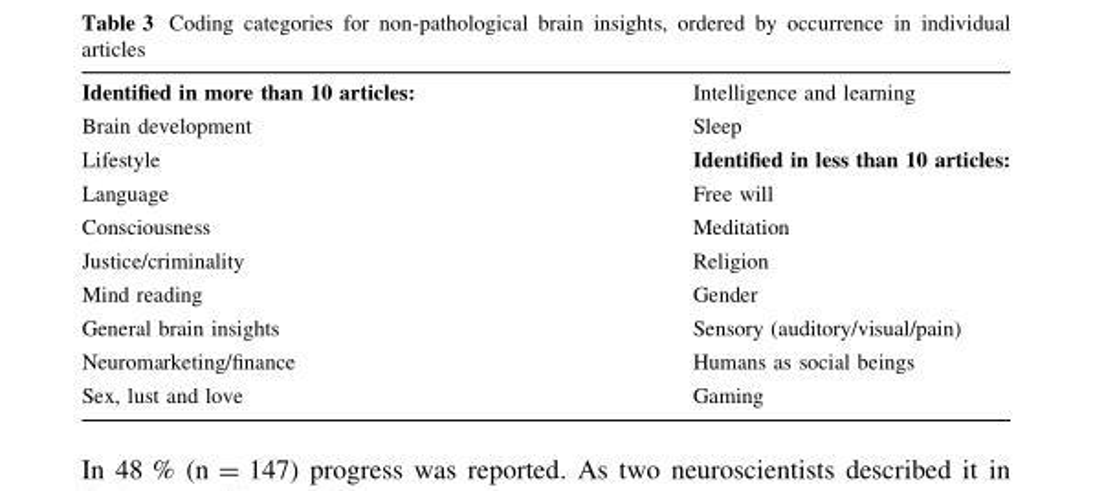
<table><tbody><tr><td>Identified in more than 10 articles:</td><td>Intelligence and learning</td></tr><tr><td>Brain development</td><td>Sleep</td></tr><tr><td>Lifestyle</td><td>Identified in less than 10 articles:</td></tr><tr><td>Language</td><td>Free will</td></tr><tr><td>Consciousness</td><td>Meditation</td></tr><tr><td>Justice/criminality</td><td>Religion</td></tr><tr><td>Mind reading</td><td>Gender</td></tr><tr><td>General brain insights</td><td>Sensory (auditory/visual/pain)</td></tr><tr><td>Neuromarketing/finance</td><td>Humans as social beings</td></tr><tr><td>Sex, lust and love</td><td>Gaming</td></tr></tbody></table>